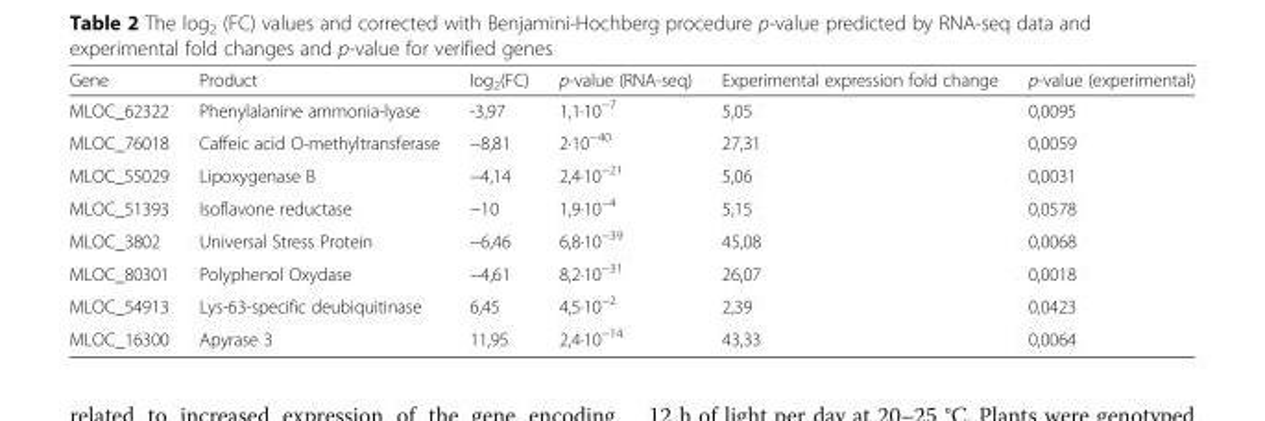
<table><thead><tr><td>Gene</td><td>Product</td><td>log<sub>2</sub>(FC)</td><td>p-value (RNA-seq)</td><td>Experimental expression fold change</td><td>p-value (experimental)</td></tr></thead><tbody><tr><td>MLOC_62322</td><td>Phenylalanine ammonia-lyase</td><td>-3,97</td><td>1,1·10<sup>−7</sup></td><td>5,05</td><td>0,0095</td></tr><tr><td>MLOC_76018</td><td>Caffeic acid O-methyltransferase</td><td>−8,81</td><td>2·10<sup>−40</sup></td><td>27,31</td><td>0,0059</td></tr><tr><td>MLOC_55029</td><td>Lipoxygenase B</td><td>−4,14</td><td>2,4·10<sup>−21</sup></td><td>5,06</td><td>0,0031</td></tr><tr><td>MLOC_51393</td><td>Isoflavone reductase</td><td>−10</td><td>1,9·10<sup>−4</sup></td><td>5,15</td><td>0,0578</td></tr><tr><td>MLOC_3802</td><td>Universal Stress Protein</td><td>−6,46</td><td>6,8·10<sup>−39</sup></td><td>45,08</td><td>0,0068</td></tr><tr><td>MLOC_80301</td><td>Polyphenol Oxydase</td><td>−4,61</td><td>8,2·10<sup>−31</sup></td><td>26,07</td><td>0,0018</td></tr><tr><td>MLOC_54913</td><td>Lys-63-specific deubiquitinase</td><td>6,45</td><td>4,5·10<sup>−2</sup></td><td>2,39</td><td>0,0423</td></tr><tr><td>MLOC_16300</td><td>Apyrase 3</td><td>11,95</td><td>2,4·10<sup>−14</sup></td><td>43,33</td><td>0,0064</td></tr></tbody></table>